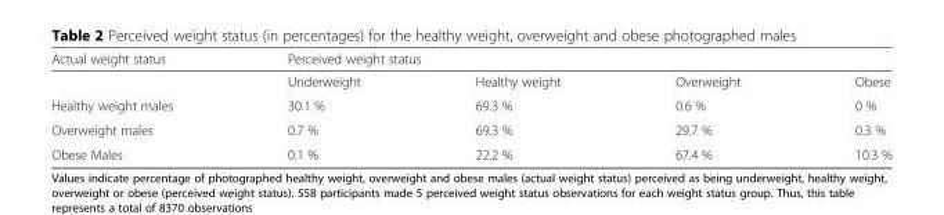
<table><thead><tr><td rowspan="2">Actual weight status</td><td colspan="4">Perceived weight status</td></tr><tr><td>Underweight</td><td>Healthy weight</td><td>Overweight</td><td>Obese</td></tr></thead><tbody><tr><td>Healthy weight males</td><td>30.1 %</td><td>69.3 %</td><td>0.6 %</td><td>0 %</td></tr><tr><td>Overweight males</td><td>0.7 %</td><td>69.3 %</td><td>29.7 %</td><td>0.3 %</td></tr><tr><td>Obese Males</td><td>0.1 %</td><td>22.2 %</td><td>67.4 %</td><td>10.3 %</td></tr></tbody></table>